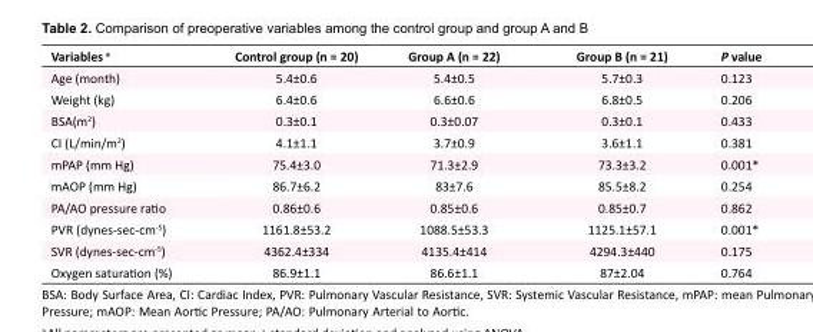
<table><tbody><tr><td>Variables <sup>a</sup></td><td>Control group (n = 20)</td><td>Group A (n = 22)</td><td>Group B (n = 21)</td><td>P value</td></tr><tr><td>Age (month)</td><td>5.4±0.6</td><td>5.4±0.5</td><td>5.7±0.3</td><td>0.123</td></tr><tr><td>Weight (kg)</td><td>6.4±0.6</td><td>6.6±0.6</td><td>6.8±0.5</td><td>0.206</td></tr><tr><td>BSA(m<sup>2</sup>)</td><td>0.3±0.1</td><td>0.3±0.07</td><td>0.3±0.1</td><td>0.433</td></tr><tr><td>CI (L/min/m<sup>2</sup>)</td><td>4.1±1.1</td><td>3.7±0.9</td><td>3.6±1.1</td><td>0.381</td></tr><tr><td>mPAP (mm Hg)</td><td>75.4±3.0</td><td>71.3±2.9</td><td>73.3±3.2</td><td>0.001*</td></tr><tr><td>mAOP (mm Hg)</td><td>86.7±6.2</td><td>83±7.6</td><td>85.5±8.2</td><td>0.254</td></tr><tr><td>PA/AO pressure ratio</td><td>0.86±0.6</td><td>0.85±0.6</td><td>0.85±0.7</td><td>0.862</td></tr><tr><td>PVR (dynes-sec-cm<sup>-5</sup>)</td><td>1161.8±53.2</td><td>1088.5±53.3</td><td>1125.1±57.1</td><td>0.001*</td></tr><tr><td>SVR (dynes-sec-cm<sup>-5</sup>)</td><td>4362.4±334</td><td>4135.4±414</td><td>4294.3±440</td><td>0.175</td></tr><tr><td>Oxygen saturation (%)</td><td>86.9±1.1</td><td>86.6±1.1</td><td>87±2.04</td><td>0.764</td></tr></tbody></table>